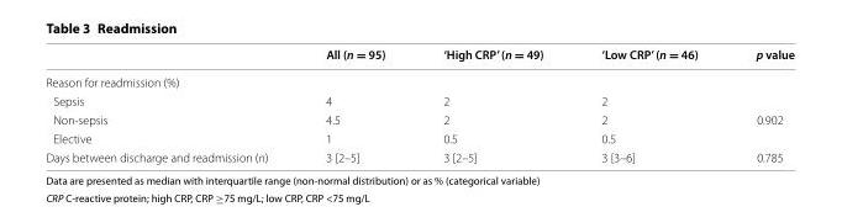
<table><thead><tr><td></td><td>All (n = 95)</td><td>‘High CRP’ (n = 49)</td><td>‘Low CRP’ (n = 46)</td><td>p value</td></tr></thead><tbody><tr><td colspan="5">Reason for readmission (%)</td></tr><tr><td>Sepsis</td><td>4</td><td>2</td><td>2</td><td></td></tr><tr><td>Non-sepsis</td><td>4.5</td><td>2</td><td>2</td><td>0.902</td></tr><tr><td>Elective</td><td>1</td><td>0.5</td><td>0.5</td><td></td></tr><tr><td>Days between discharge and readmission (n)</td><td>3 [2–5]</td><td>3 [2–5]</td><td>3 [3–6]</td><td>0.785</td></tr></tbody></table>